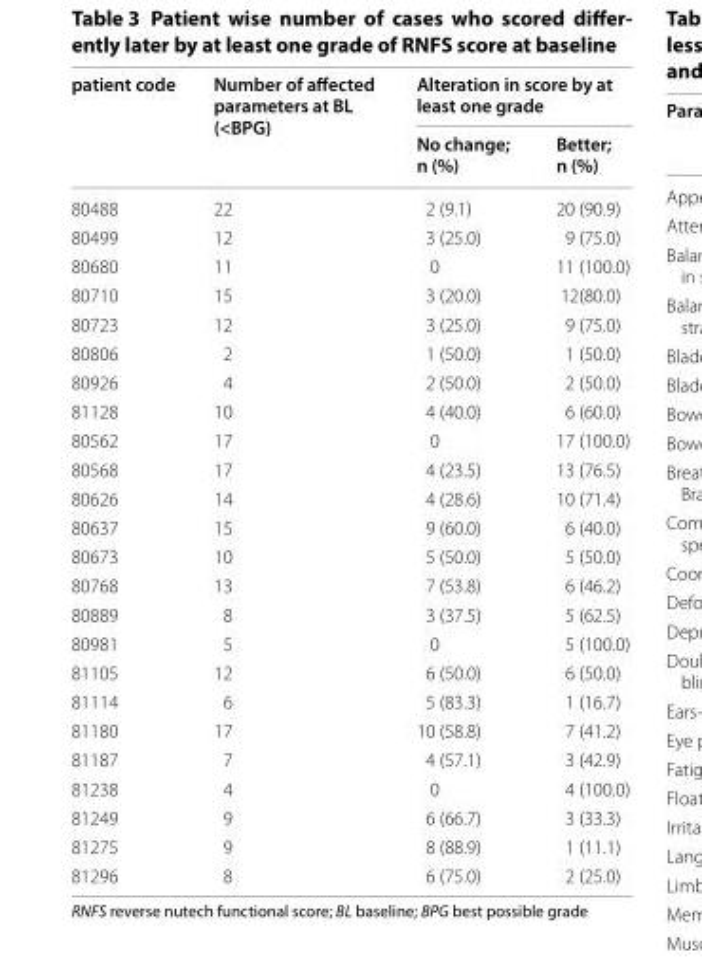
<table><thead><tr><td rowspan="2">patient code</td><td rowspan="2">Number of affected parameters at BL (&lt;BPG)</td><td colspan="2">Alteration in score by at least one grade</td></tr><tr><td>No change; n (%)</td><td>Better; n (%)</td></tr></thead><tbody><tr><td>80488</td><td>22</td><td>2 (9.1)</td><td>20 (90.9)</td></tr><tr><td>80499</td><td>12</td><td>3 (25.0)</td><td>9 (75.0)</td></tr><tr><td>80680</td><td>11</td><td>0</td><td>11 (100.0)</td></tr><tr><td>80710</td><td>15</td><td>3 (20.0)</td><td>12(80.0)</td></tr><tr><td>80723</td><td>12</td><td>3 (25.0)</td><td>9 (75.0)</td></tr><tr><td>80806</td><td>2</td><td>1 (50.0)</td><td>1 (50.0)</td></tr><tr><td>80926</td><td>4</td><td>2 (50.0)</td><td>2 (50.0)</td></tr><tr><td>81128</td><td>10</td><td>4 (40.0)</td><td>6 (60.0)</td></tr><tr><td>80562</td><td>17</td><td>0</td><td>17 (100.0)</td></tr><tr><td>80568</td><td>17</td><td>4 (23.5)</td><td>13 (76.5)</td></tr><tr><td>80626</td><td>14</td><td>4 (28.6)</td><td>10 (71.4)</td></tr><tr><td>80637</td><td>15</td><td>9 (60.0)</td><td>6 (40.0)</td></tr><tr><td>80673</td><td>10</td><td>5 (50.0)</td><td>5 (50.0)</td></tr><tr><td>80768</td><td>13</td><td>7 (53.8)</td><td>6 (46.2)</td></tr><tr><td>80889</td><td>8</td><td>3 (37.5)</td><td>5 (62.5)</td></tr><tr><td>80981</td><td>5</td><td>0</td><td>5 (100.0)</td></tr><tr><td>81105</td><td>12</td><td>6 (50.0)</td><td>6 (50.0)</td></tr><tr><td>81114</td><td>6</td><td>5 (83.3)</td><td>1 (16.7)</td></tr><tr><td>81180</td><td>17</td><td>10 (58.8)</td><td>7 (41.2)</td></tr><tr><td>81187</td><td>7</td><td>4 (57.1)</td><td>3 (42.9)</td></tr><tr><td>81238</td><td>4</td><td>0</td><td>4 (100.0)</td></tr><tr><td>81249</td><td>9</td><td>6 (66.7)</td><td>3 (33.3)</td></tr><tr><td>81275</td><td>9</td><td>8 (88.9)</td><td>1 (11.1)</td></tr><tr><td>81296</td><td>8</td><td>6 (75.0)</td><td>2 (25.0)</td></tr></tbody></table>